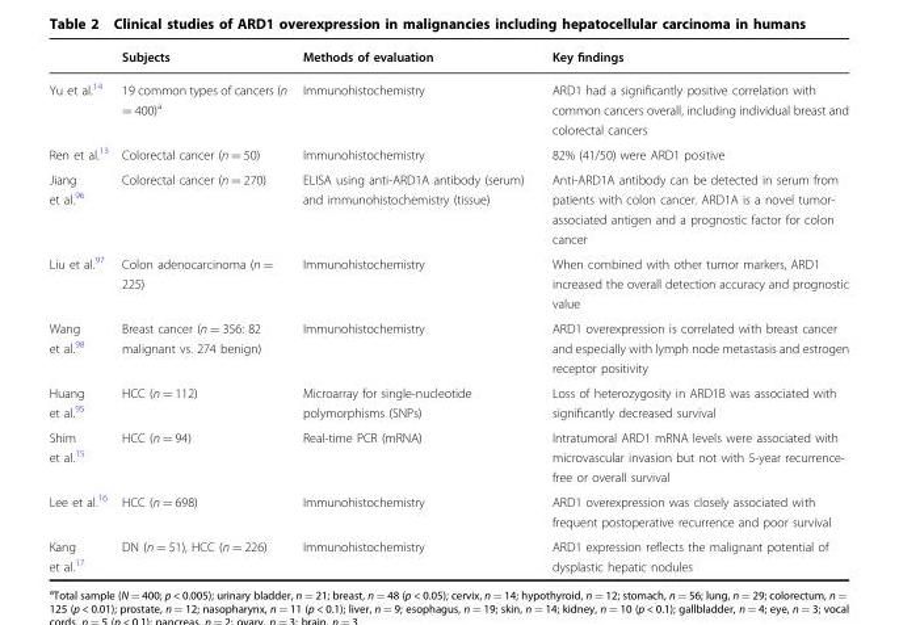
<table><thead><tr><td></td><td>Subjects</td><td>Methods of evaluation</td><td>Key findings</td></tr></thead><tbody><tr><td>Yu et al.<sup>14</sup></td><td>19 common types of cancers (n = 400)<sup>a</sup></td><td>Immunohistochemistry</td><td>ARD1 had a significantly positive correlation with common cancers overall, including individual breast and colorectal cancers</td></tr><tr><td>Ren et al.<sup>13</sup></td><td>Colorectal cancer (n = 50)</td><td>Immunohistochemistry</td><td>82% (41/50) were ARD1 positive</td></tr><tr><td>Jiang et al.<sup>96</sup></td><td>Colorectal cancer (n = 270)</td><td>ELISA using anti-ARD1A antibody (serum) and immunohistochemistry (tissue)</td><td>Anti-ARD1A antibody can be detected in serum from patients with colon cancer. ARD1A is a novel tumor- associated antigen and a prognostic factor for colon cancer</td></tr><tr><td>Liu et al.<sup>97</sup></td><td>Colon adenocarcinoma (n = 225)</td><td>Immunohistochemistry</td><td>When combined with other tumor markers, ARD1 increased the overall detection accuracy and prognostic value</td></tr><tr><td>Wang et al.<sup>98</sup></td><td>Breast cancer (n = 356: 82 malignant vs. 274 benign)</td><td>Immunohistochemistry</td><td>ARD1 overexpression is correlated with breast cancer and especially with lymph node metastasis and estrogen receptor positivity</td></tr><tr><td>Huang et al.<sup>95</sup></td><td>HCC (n = 112)</td><td>Microarray for single-nucleotide polymorphisms (SNPs)</td><td>Loss of heterozygosity in ARD1B was associated with significantly decreased survival</td></tr><tr><td>Shim et al.<sup>15</sup></td><td>HCC (n = 94)</td><td>Real-time PCR (mRNA)</td><td>Intratumoral ARD1 mRNA levels were associated with microvascular invasion but not with 5-year recurrence- free or overall survival</td></tr><tr><td>Lee et al.<sup>16</sup></td><td>HCC (n = 698)</td><td>Immunohistochemistry</td><td>ARD1 overexpression was closely associated with frequent postoperative recurrence and poor survival</td></tr><tr><td>Kang et al.<sup>17</sup></td><td>DN (n = 51), HCC (n = 226)</td><td>Immunohistochemistry</td><td>ARD1 expression reflects the malignant potential of dysplastic hepatic nodules</td></tr></tbody></table>